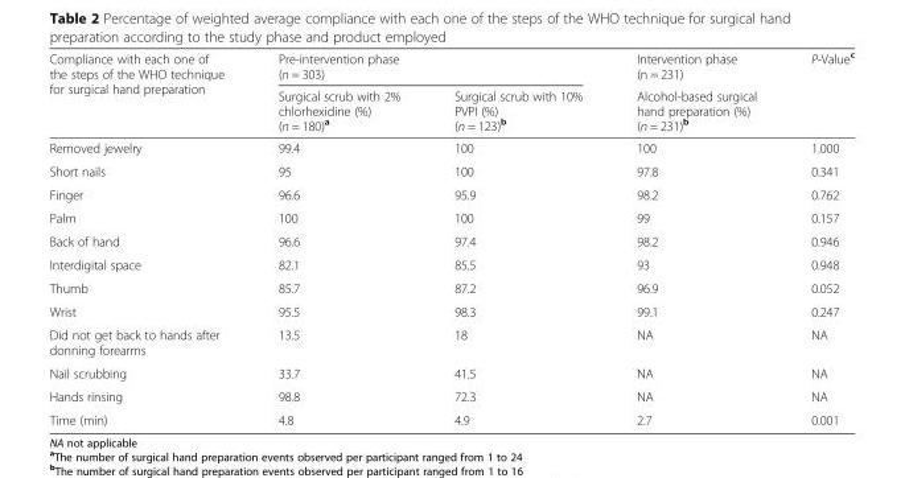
<table><thead><tr><td rowspan="2">Compliance with each one of the steps of the WHO technique for surgical hand preparation</td><td colspan="2">Pre-intervention phase (n = 303)</td><td rowspan="2">Intervention phase (n = 231) Alcohol-based surgical hand preparation (%) (n = 231)<sup>b</sup></td><td rowspan="2">P-Value<sup>c</sup></td></tr><tr><td>Surgical scrub with 2% chlorhexidine (%) (n = 180)<sup>a</sup></td><td>Surgical scrub with 10% PVPI (%) (n = 123)<sup>b</sup></td></tr></thead><tbody><tr><td>Removed jewelry</td><td>99.4</td><td>100</td><td>100</td><td>1.000</td></tr><tr><td>Short nails</td><td>95</td><td>100</td><td>97.8</td><td>0.341</td></tr><tr><td>Finger</td><td>96.6</td><td>95.9</td><td>98.2</td><td>0.762</td></tr><tr><td>Palm</td><td>100</td><td>100</td><td>99</td><td>0.157</td></tr><tr><td>Back of hand</td><td>96.6</td><td>97.4</td><td>98.2</td><td>0.946</td></tr><tr><td>Interdigital space</td><td>82.1</td><td>85.5</td><td>93</td><td>0.948</td></tr><tr><td>Thumb</td><td>85.7</td><td>87.2</td><td>96.9</td><td>0.052</td></tr><tr><td>Wrist</td><td>95.5</td><td>98.3</td><td>99.1</td><td>0.247</td></tr><tr><td>Did not get back to hands after donning forearms</td><td>13.5</td><td>18</td><td>NA</td><td>NA</td></tr><tr><td>Nail scrubbing</td><td>33.7</td><td>41.5</td><td>NA</td><td>NA</td></tr><tr><td>Hands rinsing</td><td>98.8</td><td>72.3</td><td>NA</td><td>NA</td></tr><tr><td>Time (min)</td><td>4.8</td><td>4.9</td><td>2.7</td><td>0.001</td></tr></tbody></table>